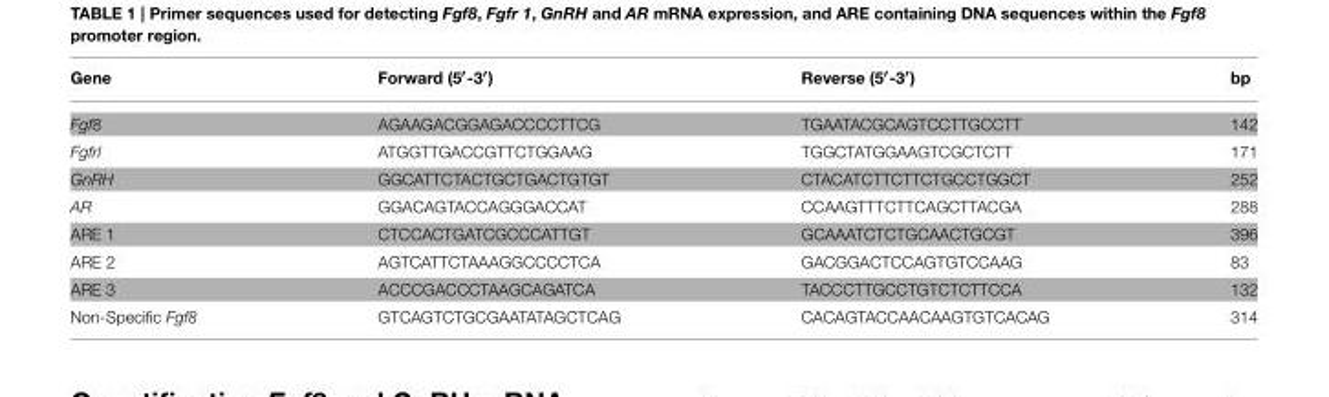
<table><thead><tr><td>Gene</td><td>Forward (5′-3′)</td><td>Reverse (5′-3′)</td><td>bp</td></tr></thead><tbody><tr><td>Fgf8</td><td>AGAAGACGGAGACCCCTTCG</td><td>TGAATACGCAGTCCTTGCCTT</td><td>142</td></tr><tr><td>Fgfrl</td><td>ATGGTTGACCGTTCTGGAAG</td><td>TGGCTATGGAAGTCGCTCTT</td><td>171</td></tr><tr><td>GnRH</td><td>GGCATTCTACTGCTGACTGTGT</td><td>CTACATCTTCTTCTGCCTGGCT</td><td>252</td></tr><tr><td>AR</td><td>GGACAGTACCAGGGACCAT</td><td>CCAAGTTTCTTCAGCTTACGA</td><td>288</td></tr><tr><td>ARE 1</td><td>CTCCACTGATCGCCCATTGT</td><td>GCAAATCTCTGCAACTGCGT</td><td>396</td></tr><tr><td>ARE 2</td><td>AGTCATTCTAAAGGCCCCTCA</td><td>GACGGACTCCAGTGTCCAAG</td><td>83</td></tr><tr><td>ARE 3</td><td>ACCCGACCCTAAGCAGATCA</td><td>TACCCTTGCCTGTCTCTTCCA</td><td>132</td></tr><tr><td>Non-Specific Fgf8</td><td>GTCAGTCTGCGAATATAGCTCAG</td><td>CACAGTACCAACAAGTGTCACAG</td><td>314</td></tr></tbody></table>